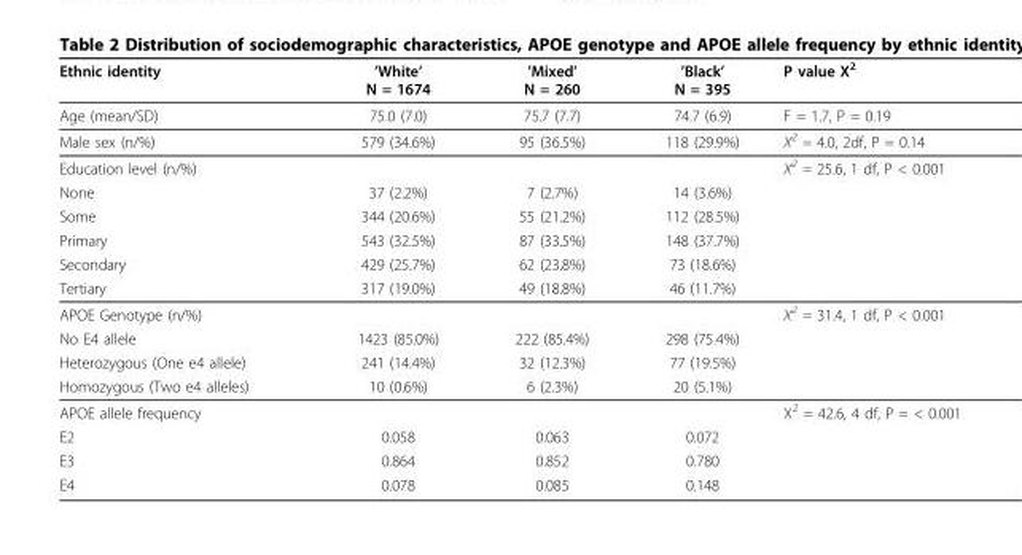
<table><thead><tr><td>Ethnic identity</td><td>’White’ N = 1674</td><td>’Mixed’ N = 260</td><td>’Black’ N = 395</td><td>P value X<sup>2</sup></td></tr></thead><tbody><tr><td>Age (mean/SD)</td><td>75.0 (7.0)</td><td>75.7 (7.7)</td><td>74.7 (6.9)</td><td>F = 1.7, P = 0.19</td></tr><tr><td>Male sex (n/%)</td><td>579 (34.6%)</td><td>95 (36.5%)</td><td>118 (29.9%)</td><td>X<sup>2</sup> = 4.0, 2df, P = 0.14</td></tr><tr><td>Education level (n/%)</td><td></td><td></td><td></td><td>X<sup>2</sup> = 25.6, 1 df, P &lt; 0.001</td></tr><tr><td>None</td><td>37 (2.2%)</td><td>7 (2.7%)</td><td>14 (3.6%)</td><td></td></tr><tr><td>Some</td><td>344 (20.6%)</td><td>55 (21.2%)</td><td>112 (28.5%)</td><td></td></tr><tr><td>Primary</td><td>543 (32.5%)</td><td>87 (33.5%)</td><td>148 (37.7%)</td><td></td></tr><tr><td>Secondary</td><td>429 (25.7%)</td><td>62 (23.8%)</td><td>73 (18.6%)</td><td></td></tr><tr><td>Tertiary</td><td>317 (19.0%)</td><td>49 (18.8%)</td><td>46 (11.7%)</td><td></td></tr><tr><td>APOE Genotype (n/%)</td><td></td><td></td><td></td><td>X<sup>2</sup> = 31.4, 1 df, P &lt; 0.001</td></tr><tr><td>No E4 allele</td><td>1423 (85.0%)</td><td>222 (85.4%)</td><td>298 (75.4%)</td><td></td></tr><tr><td>Heterozygous (One e4 allele)</td><td>241 (14.4%)</td><td>32 (12.3%)</td><td>77 (19.5%)</td><td></td></tr><tr><td>Homozygous (Two e4 alleles)</td><td>10 (0.6%)</td><td>6 (2.3%)</td><td>20 (5.1%)</td><td></td></tr><tr><td>APOE allele frequency</td><td></td><td></td><td></td><td>X<sup>2</sup> = 42.6, 4 df, P = &lt; 0.001</td></tr><tr><td>E2</td><td>0.058</td><td>0.063</td><td>0.072</td><td></td></tr><tr><td>E3</td><td>0.864</td><td>0.852</td><td>0.780</td><td></td></tr><tr><td>E4</td><td>0.078</td><td>0.085</td><td>0.148</td><td></td></tr></tbody></table>